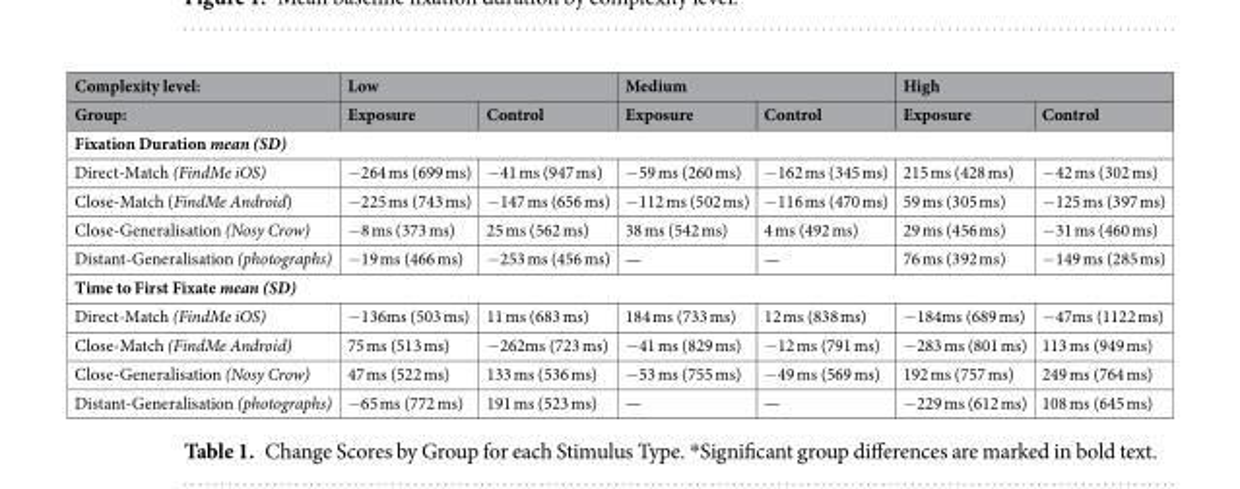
<table><thead><tr><td rowspan="2">Complexity level: Group:</td><td colspan="2">Low</td><td colspan="2">Medium</td><td colspan="2">High</td></tr><tr><td>Exposure</td><td>Control</td><td>Exposure</td><td>Control</td><td>Exposure</td><td>Control</td></tr></thead><tbody><tr><td colspan="7">Fixation Duration mean (SD)</td></tr><tr><td>Direct-Match (FindMe iOS)</td><td>−264 ms (699 ms)</td><td>−41 ms (947 ms)</td><td>−59 ms (260 ms)</td><td>−162 ms (345 ms)</td><td>215 ms (428 ms)</td><td>−42 ms (302 ms)</td></tr><tr><td>Close-Match (FindMe Android)</td><td>−225 ms (743 ms)</td><td>−147 ms (656 ms)</td><td>−112 ms (502 ms)</td><td>−116 ms (470 ms)</td><td>59 ms (305 ms)</td><td>−125 ms (397 ms)</td></tr><tr><td>Close-Generalisation (Nosy Crow)</td><td>−8 ms (373 ms)</td><td>25 ms (562 ms)</td><td>38 ms (542 ms)</td><td>4 ms (492 ms)</td><td>29 ms (456 ms)</td><td>−31 ms (460 ms)</td></tr><tr><td>Distant-Generalisation (photographs)</td><td>−19 ms (466 ms)</td><td>−253 ms (456 ms)</td><td>—</td><td>—</td><td>76 ms (392 ms)</td><td>−149 ms (285 ms)</td></tr><tr><td colspan="7">Time to First Fixate mean (SD)</td></tr><tr><td>Direct-Match (FindMe iOS)</td><td>−136ms (503 ms)</td><td>11 ms (683 ms)</td><td>184 ms (733 ms)</td><td>12 ms (838 ms)</td><td>−184ms (689 ms)</td><td>−47ms (1122 ms)</td></tr><tr><td>Close-Match (FindMe Android)</td><td>75 ms (513 ms)</td><td>−262ms (723 ms)</td><td>−41 ms (829 ms)</td><td>−12 ms (791 ms)</td><td>−283 ms (801 ms)</td><td>113 ms (949 ms)</td></tr><tr><td>Close-Generalisation (Nosy Crow)</td><td>47 ms (522 ms)</td><td>133 ms (536 ms)</td><td>−53 ms (755 ms)</td><td>−49 ms (569 ms)</td><td>192 ms (757 ms)</td><td>249 ms (764 ms)</td></tr><tr><td>Distant-Generalisation (photographs)</td><td>−65 ms (772 ms)</td><td>191 ms (523 ms)</td><td>—</td><td>—</td><td>−229 ms (612 ms)</td><td>108 ms (645 ms)</td></tr></tbody></table>